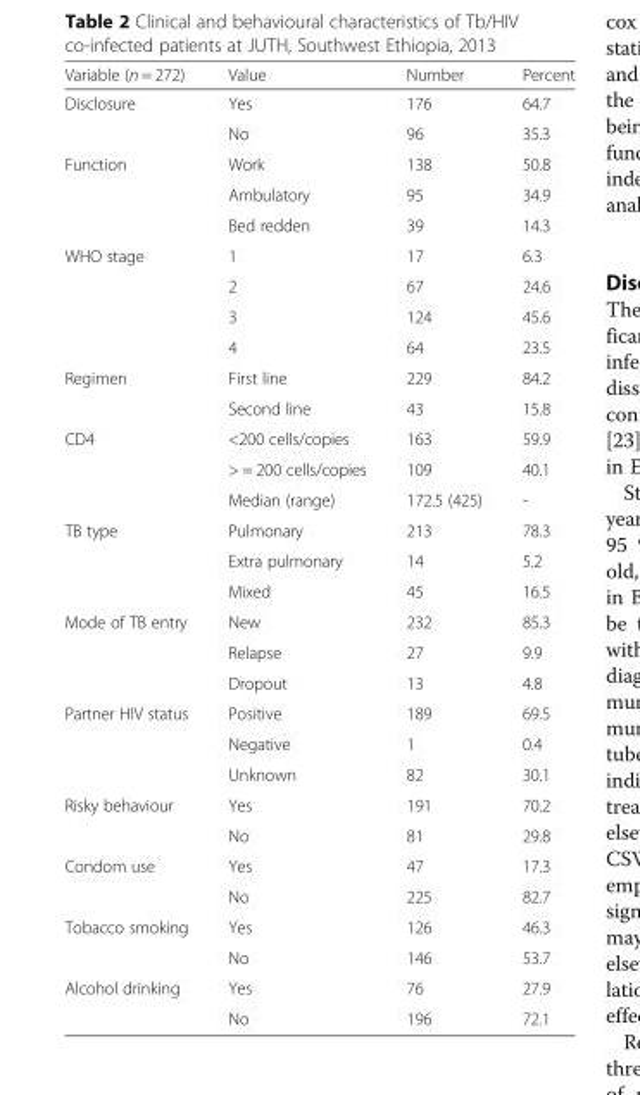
<table><thead><tr><td>Variable (n = 272)</td><td>Value</td><td>Number</td><td>Percent</td></tr></thead><tbody><tr><td rowspan="2">Disclosure</td><td>Yes</td><td>176</td><td>64.7</td></tr><tr><td>No</td><td>96</td><td>35.3</td></tr><tr><td rowspan="3">Function</td><td>Work</td><td>138</td><td>50.8</td></tr><tr><td>Ambulatory</td><td>95</td><td>34.9</td></tr><tr><td>Bed redden</td><td>39</td><td>14.3</td></tr><tr><td rowspan="4">WHO stage</td><td>1</td><td>17</td><td>6.3</td></tr><tr><td>2</td><td>67</td><td>24.6</td></tr><tr><td>3</td><td>124</td><td>45.6</td></tr><tr><td>4</td><td>64</td><td>23.5</td></tr><tr><td rowspan="2">Regimen</td><td>First line</td><td>229</td><td>84.2</td></tr><tr><td>Second line</td><td>43</td><td>15.8</td></tr><tr><td rowspan="3">CD4</td><td>&lt;200 cells/copies</td><td>163</td><td>59.9</td></tr><tr><td>&gt; = 200 cells/copies</td><td>109</td><td>40.1</td></tr><tr><td>Median (range)</td><td>172.5 (425)</td><td>-</td></tr><tr><td rowspan="3">TB type</td><td>Pulmonary</td><td>213</td><td>78.3</td></tr><tr><td>Extra pulmonary</td><td>14</td><td>5.2</td></tr><tr><td>Mixed</td><td>45</td><td>16.5</td></tr><tr><td rowspan="3">Mode of TB entry</td><td>New</td><td>232</td><td>85.3</td></tr><tr><td>Relapse</td><td>27</td><td>9.9</td></tr><tr><td>Dropout</td><td>13</td><td>4.8</td></tr><tr><td rowspan="3">Partner HIV status</td><td>Positive</td><td>189</td><td>69.5</td></tr><tr><td>Negative</td><td>1</td><td>0.4</td></tr><tr><td>Unknown</td><td>82</td><td>30.1</td></tr><tr><td rowspan="2">Risky behaviour</td><td>Yes</td><td>191</td><td>70.2</td></tr><tr><td>No</td><td>81</td><td>29.8</td></tr><tr><td rowspan="2">Condom use</td><td>Yes</td><td>47</td><td>17.3</td></tr><tr><td>No</td><td>225</td><td>82.7</td></tr><tr><td rowspan="2">Tobacco smoking</td><td>Yes</td><td>126</td><td>46.3</td></tr><tr><td>No</td><td>146</td><td>53.7</td></tr><tr><td rowspan="2">Alcohol drinking</td><td>Yes</td><td>76</td><td>27.9</td></tr><tr><td>No</td><td>196</td><td>72.1</td></tr></tbody></table>